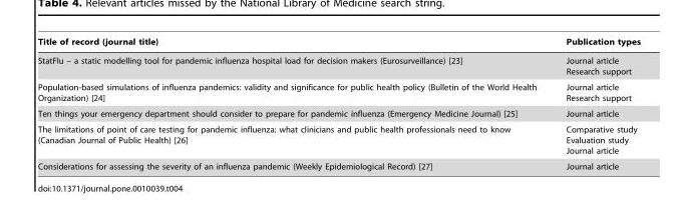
<table><thead><tr><td>Title of record (journal title)</td><td>Publication types</td></tr></thead><tbody><tr><td>StatFlu – a static modelling tool for pandemic influenza hospital load for decision makers (Eurosurveillance) [23]</td><td>Journal article Research support</td></tr><tr><td>Population-based simulations of influenza pandemics: validity and significance for public health policy (Bulletin of the World Health Organization) [24]</td><td>Journal article Research support</td></tr><tr><td>Ten things your emergency department should consider to prepare for pandemic influenza (Emergency Medicine Journal) [25]</td><td>Journal article</td></tr><tr><td>The limitations of point of care testing for pandemic influenza: what clinicians and public health professionals need to know (Canadian Journal of Public Health) [26]</td><td>Comparative study Evaluation study Journal article</td></tr><tr><td>Considerations for assessing the severity of an influenza pandemic (Weekly Epidemiological Record) [27]</td><td>Journal article</td></tr></tbody></table>